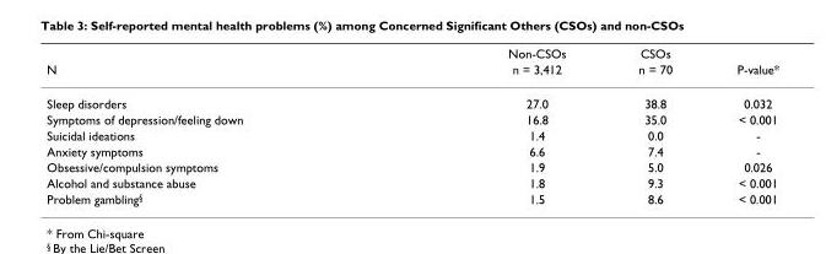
<table><thead><tr><td rowspan="2">N</td><td rowspan="2">Non-CSOs n = 3,412</td><td rowspan="2">CSOs n = 70</td><td rowspan="2">P-value*</td></tr><tr></tr></thead><tbody><tr><td>Sleep disorders</td><td>27.0</td><td>38.8</td><td>0.032</td></tr><tr><td>Symptoms of depression/feeling down</td><td>16.8</td><td>35.0</td><td>&lt; 0.001</td></tr><tr><td>Suicidal ideations</td><td>1.4</td><td>0.0</td><td>-</td></tr><tr><td>Anxiety symptoms</td><td>6.6</td><td>7.4</td><td>-</td></tr><tr><td>Obsessive/compulsion symptoms</td><td>1.9</td><td>5.0</td><td>0.026</td></tr><tr><td>Alcohol and substance abuse</td><td>1.8</td><td>9.3</td><td>&lt; 0.001</td></tr><tr><td>Problem gambling<sup>§</sup></td><td>1.5</td><td>8.6</td><td>&lt; 0.001</td></tr></tbody></table>